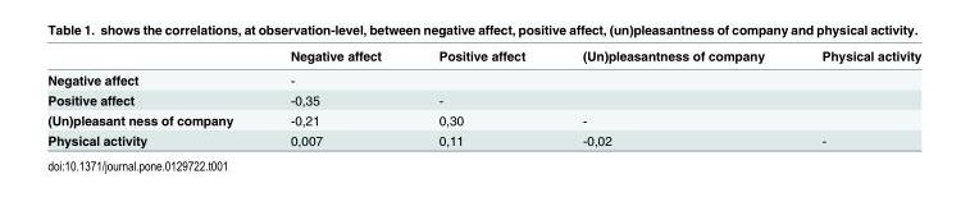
<table><thead><tr><td></td><td>Negative affect</td><td>Positive affect</td><td>(Un)pleasantness of company</td><td>Physical activity</td></tr></thead><tbody><tr><td>Negative affect</td><td>-</td><td></td><td></td><td></td></tr><tr><td>Positive affect</td><td>-0,35</td><td>-</td><td></td><td></td></tr><tr><td>(Un)pleasant ness of company</td><td>-0,21</td><td>0,30</td><td>-</td><td></td></tr><tr><td>Physical activity</td><td>0,007</td><td>0,11</td><td>-0,02</td><td>-</td></tr></tbody></table>